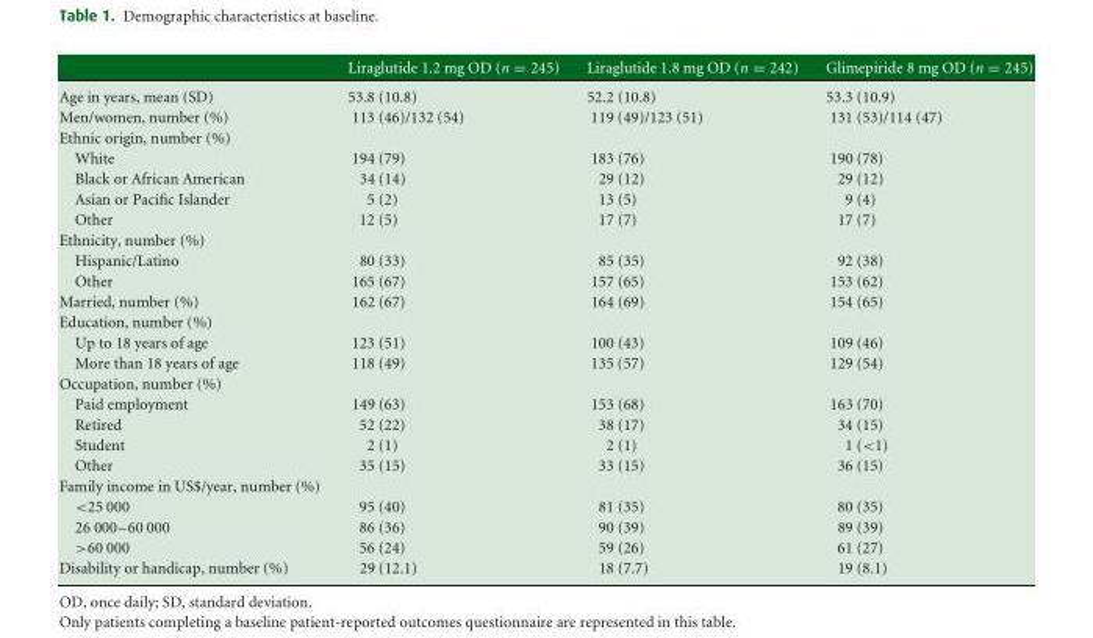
<table><thead><tr><td></td><td>Liraglutide 1.2 mg OD (n = 245)</td><td>Liraglutide 1.8 mg OD (n = 242)</td><td>Glimepiride 8 mg OD (n = 245)</td></tr></thead><tbody><tr><td>Age in years, mean (SD)</td><td>53.8 (10.8)</td><td>52.2 (10.8)</td><td>53.3 (10.9)</td></tr><tr><td>Men/women, number (%)</td><td>113 (46)/132 (54)</td><td>119 (49)/123 (51)</td><td>131 (53)/114 (47)</td></tr><tr><td colspan="4">Ethnic origin, number (%)</td></tr><tr><td>White</td><td>194 (79)</td><td>183 (76)</td><td>190 (78)</td></tr><tr><td>Black or African American</td><td>34 (14)</td><td>29 (12)</td><td>29 (12)</td></tr><tr><td>Asian or Pacific Islander</td><td>5 (2)</td><td>13 (5)</td><td>9 (4)</td></tr><tr><td>Other</td><td>12 (5)</td><td>17 (7)</td><td>17 (7)</td></tr><tr><td colspan="4">Ethnicity, number (%)</td></tr><tr><td>Hispanic/Latino</td><td>80 (33)</td><td>85 (35)</td><td>92 (38)</td></tr><tr><td>Other</td><td>165 (67)</td><td>157 (65)</td><td>153 (62)</td></tr><tr><td>Married, number (%)</td><td>162 (67)</td><td>164 (69)</td><td>154 (65)</td></tr><tr><td colspan="4">Education, number (%)</td></tr><tr><td>Up to 18 years of age</td><td>123 (51)</td><td>100 (43)</td><td>109 (46)</td></tr><tr><td>More than 18 years of age</td><td>118 (49)</td><td>135 (57)</td><td>129 (54)</td></tr><tr><td colspan="4">Occupation, number (%)</td></tr><tr><td>Paid employment</td><td>149 (63)</td><td>153 (68)</td><td>163 (70)</td></tr><tr><td>Retired</td><td>52 (22)</td><td>38 (17)</td><td>34 (15)</td></tr><tr><td>Student</td><td>2 (1)</td><td>2 (1)</td><td>1 (&lt;1)</td></tr><tr><td>Other</td><td>35 (15)</td><td>33 (15)</td><td>36 (15)</td></tr><tr><td colspan="4">Family income in US$/year, number (%)</td></tr><tr><td>&lt;25 000</td><td>95 (40)</td><td>81 (35)</td><td>80 (35)</td></tr><tr><td>26 000–60 000</td><td>86 (36)</td><td>90 (39)</td><td>89 (39)</td></tr><tr><td>&gt;60 000</td><td>56 (24)</td><td>59 (26)</td><td>61 (27)</td></tr><tr><td>Disability or handicap, number (%)</td><td>29 (12.1)</td><td>18 (7.7)</td><td>19 (8.1)</td></tr></tbody></table>